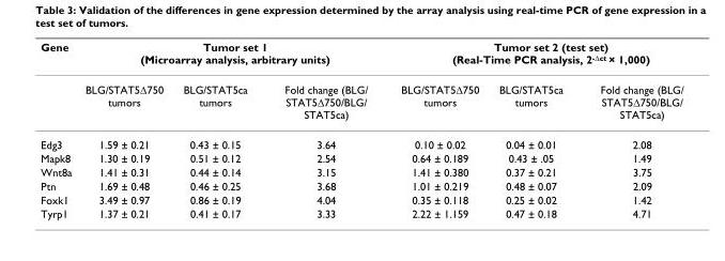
<table><thead><tr><td rowspan="2">Gene</td><td colspan="3">Tumor set 1 (Microarray analysis, arbitrary units)</td><td colspan="3">Tumor set 2 (test set) (Real-Time PCR analysis, 2<sup>-Δct</sup> × 1,000)</td></tr><tr><td>BLG/STAT5Δ750 tumors</td><td>BLG/STAT5ca tumors</td><td>Fold change (BLG/ STAT5Δ750/BLG/ STAT5ca)</td><td>BLG/STAT5Δ750 tumors</td><td>BLG/STAT5ca tumors</td><td>Fold change (BLG/ STAT5Δ750/BLG/ STAT5ca)</td></tr></thead><tbody><tr><td>Edg3</td><td>1.59 ± 0.21</td><td>0.43 ± 0.15</td><td>3.64</td><td>0.10 ± 0.02</td><td>0.04 ± 0.01</td><td>2.08</td></tr><tr><td>Mapk8</td><td>1.30 ± 0.19</td><td>0.51 ± 0.12</td><td>2.54</td><td>0.64 ± 0.189</td><td>0.43 ± .05</td><td>1.49</td></tr><tr><td>Wnt8a</td><td>1.41 ± 0.31</td><td>0.44 ± 0.14</td><td>3.15</td><td>1.41 ± 0.380</td><td>0.37 ± 0.21</td><td>3.75</td></tr><tr><td>Ptn</td><td>1.69 ± 0.48</td><td>0.46 ± 0.25</td><td>3.68</td><td>1.01 ± 0.219</td><td>0.48 ± 0.07</td><td>2.09</td></tr><tr><td>Foxk1</td><td>3.49 ± 0.97</td><td>0.86 ± 0.19</td><td>4.04</td><td>0.35 ± 0.118</td><td>0.25 ± 0.02</td><td>1.42</td></tr><tr><td>Tyrp1</td><td>1.37 ± 0.21</td><td>0.41 ± 0.17</td><td>3.33</td><td>2.22 ± 1.159</td><td>0.47 ± 0.18</td><td>4.71</td></tr></tbody></table>